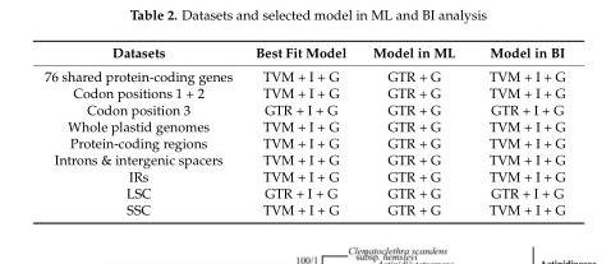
<table><thead><tr><td>Datasets</td><td>Best Fit Model</td><td>Model in ML</td><td>Model in BI</td></tr></thead><tbody><tr><td>76 shared protein-coding genes</td><td>TVM + I + G</td><td>GTR + G</td><td>TVM + I + G</td></tr><tr><td>Codon positions 1 + 2</td><td>TVM + I + G</td><td>GTR + G</td><td>TVM + I + G</td></tr><tr><td>Codon position 3</td><td>GTR + I + G</td><td>GTR + G</td><td>GTR + I + G</td></tr><tr><td>Whole plastid genomes</td><td>TVM + I + G</td><td>GTR + G</td><td>TVM + I + G</td></tr><tr><td>Protein-coding regions</td><td>TVM + I + G</td><td>GTR + G</td><td>TVM + I + G</td></tr><tr><td>Introns &amp; intergenic spacers</td><td>TVM + I + G</td><td>GTR + G</td><td>TVM + I + G</td></tr><tr><td>IRs</td><td>TVM + I + G</td><td>GTR + G</td><td>TVM + I + G</td></tr><tr><td>LSC</td><td>GTR + I + G</td><td>GTR + G</td><td>GTR + I + G</td></tr><tr><td>SSC</td><td>TVM + I + G</td><td>GTR + G</td><td>TVM + I + G</td></tr></tbody></table>